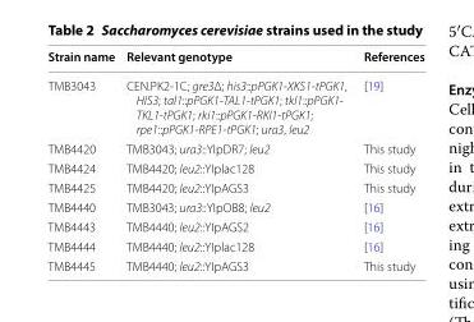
<table><thead><tr><td>Strain name</td><td>Relevant genotype</td><td>References</td></tr></thead><tbody><tr><td>TMB3043</td><td>CEN.PK2‑1C; gre3Δ; his3::pPGK1‑XKS1‑tPGK1, HIS3; tal1::pPGK1‑TAL1‑tPGK1; tkl1::pPGK1‑ TKL1‑tPGK1; rki1::pPGK1‑RKI1‑tPGK1; rpe1::pPGK1‑RPE1‑tPGK1; ura3, leu2</td><td>[19]</td></tr><tr><td>TMB4420</td><td>TMB3043; ura3::YIpDR7; leu2</td><td>This study</td></tr><tr><td>TMB4424</td><td>TMB4420; leu2::YIplac128</td><td>This study</td></tr><tr><td>TMB4425</td><td>TMB4420; leu2::YIpAGS3</td><td>This study</td></tr><tr><td>TMB4440</td><td>TMB3043; ura3::YIpOB8; leu2</td><td>[16]</td></tr><tr><td>TMB4443</td><td>TMB4440; leu2::YIpAGS2</td><td>[16]</td></tr><tr><td>TMB4444</td><td>TMB4440; leu2::YIplac128</td><td>[16]</td></tr><tr><td>TMB4445</td><td>TMB4440; leu2::YIpAGS3</td><td>This study</td></tr></tbody></table>